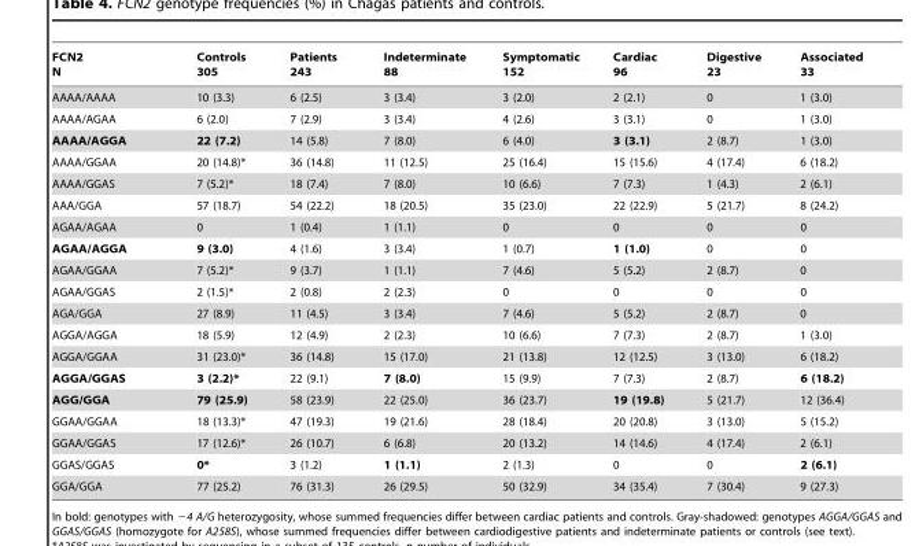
<table><thead><tr><td>FCN2 N</td><td>Controls 305</td><td>Patients 243</td><td>Indeterminate 88</td><td>Symptomatic 152</td><td>Cardiac 96</td><td>Digestive 23</td><td>Associated 33</td></tr></thead><tbody><tr><td>AAAA/AAAA</td><td>10 (3.3)</td><td>6 (2.5)</td><td>3 (3.4)</td><td>3 (2.0)</td><td>2 (2.1)</td><td>0</td><td>1 (3.0)</td></tr><tr><td>AAAA/AGAA</td><td>6 (2.0)</td><td>7 (2.9)</td><td>3 (3.4)</td><td>4 (2.6)</td><td>3 (3.1)</td><td>0</td><td>1 (3.0)</td></tr><tr><td>AAAA/AGGA</td><td>22 (7.2)</td><td>14 (5.8)</td><td>7 (8.0)</td><td>6 (4.0)</td><td>3 (3.1)</td><td>2 (8.7)</td><td>1 (3.0)</td></tr><tr><td>AAAA/GGAA</td><td>20 (14.8)*</td><td>36 (14.8)</td><td>11 (12.5)</td><td>25 (16.4)</td><td>15 (15.6)</td><td>4 (17.4)</td><td>6 (18.2)</td></tr><tr><td>AAAA/GGAS</td><td>7 (5.2)*</td><td>18 (7.4)</td><td>7 (8.0)</td><td>10 (6.6)</td><td>7 (7.3)</td><td>1 (4.3)</td><td>2 (6.1)</td></tr><tr><td>AAA/GGA</td><td>57 (18.7)</td><td>54 (22.2)</td><td>18 (20.5)</td><td>35 (23.0)</td><td>22 (22.9)</td><td>5 (21.7)</td><td>8 (24.2)</td></tr><tr><td>AGAA/AGAA</td><td>0</td><td>1 (0.4)</td><td>1 (1.1)</td><td>0</td><td>0</td><td>0</td><td>0</td></tr><tr><td>AGAA/AGGA</td><td>9 (3.0)</td><td>4 (1.6)</td><td>3 (3.4)</td><td>1 (0.7)</td><td>1 (1.0)</td><td>0</td><td>0</td></tr><tr><td>AGAA/GGAA</td><td>7 (5.2)*</td><td>9 (3.7)</td><td>1 (1.1)</td><td>7 (4.6)</td><td>5 (5.2)</td><td>2 (8.7)</td><td>0</td></tr><tr><td>AGAA/GGAS</td><td>2 (1.5)*</td><td>2 (0.8)</td><td>2 (2.3)</td><td>0</td><td>0</td><td>0</td><td>0</td></tr><tr><td>AGA/GGA</td><td>27 (8.9)</td><td>11 (4.5)</td><td>3 (3.4)</td><td>7 (4.6)</td><td>5 (5.2)</td><td>2 (8.7)</td><td>0</td></tr><tr><td>AGGA/AGGA</td><td>18 (5.9)</td><td>12 (4.9)</td><td>2 (2.3)</td><td>10 (6.6)</td><td>7 (7.3)</td><td>2 (8.7)</td><td>1 (3.0)</td></tr><tr><td>AGGA/GGAA</td><td>31 (23.0)*</td><td>36 (14.8)</td><td>15 (17.0)</td><td>21 (13.8)</td><td>12 (12.5)</td><td>3 (13.0)</td><td>6 (18.2)</td></tr><tr><td>AGGA/GGAS</td><td>3 (2.2)*</td><td>22 (9.1)</td><td>7 (8.0)</td><td>15 (9.9)</td><td>7 (7.3)</td><td>2 (8.7)</td><td>6 (18.2)</td></tr><tr><td>AGG/GGA</td><td>79 (25.9)</td><td>58 (23.9)</td><td>22 (25.0)</td><td>36 (23.7)</td><td>19 (19.8)</td><td>5 (21.7)</td><td>12 (36.4)</td></tr><tr><td>GGAA/GGAA</td><td>18 (13.3)*</td><td>47 (19.3)</td><td>19 (21.6)</td><td>28 (18.4)</td><td>20 (20.8)</td><td>3 (13.0)</td><td>5 (15.2)</td></tr><tr><td>GGAA/GGAS</td><td>17 (12.6)*</td><td>26 (10.7)</td><td>6 (6.8)</td><td>20 (13.2)</td><td>14 (14.6)</td><td>4 (17.4)</td><td>2 (6.1)</td></tr><tr><td>GGAS/GGAS</td><td>0*</td><td>3 (1.2)</td><td>1 (1.1)</td><td>2 (1.3)</td><td>0</td><td>0</td><td>2 (6.1)</td></tr><tr><td>GGA/GGA</td><td>77 (25.2)</td><td>76 (31.3)</td><td>26 (29.5)</td><td>50 (32.9)</td><td>34 (35.4)</td><td>7 (30.4)</td><td>9 (27.3)</td></tr></tbody></table>